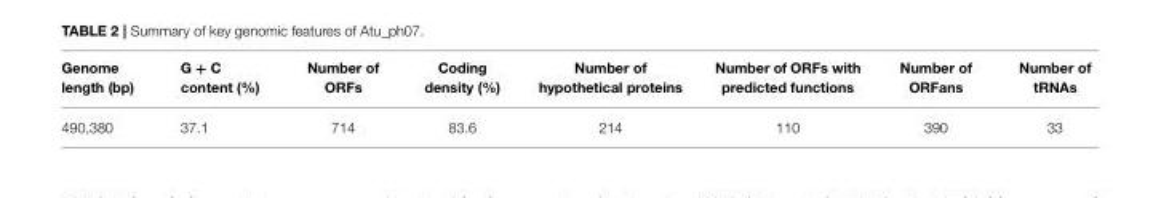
<table><thead><tr><td>Genome length (bp)</td><td>G + C content (%)</td><td>Number of ORFs</td><td>Coding density (%)</td><td>Number of hypothetical proteins</td><td>Number of ORFs with predicted functions</td><td>Number of ORFans</td><td>Number of tRNAs</td></tr></thead><tbody><tr><td>490,380</td><td>37.1</td><td>714</td><td>83.6</td><td>214</td><td>110</td><td>390</td><td>33</td></tr></tbody></table>